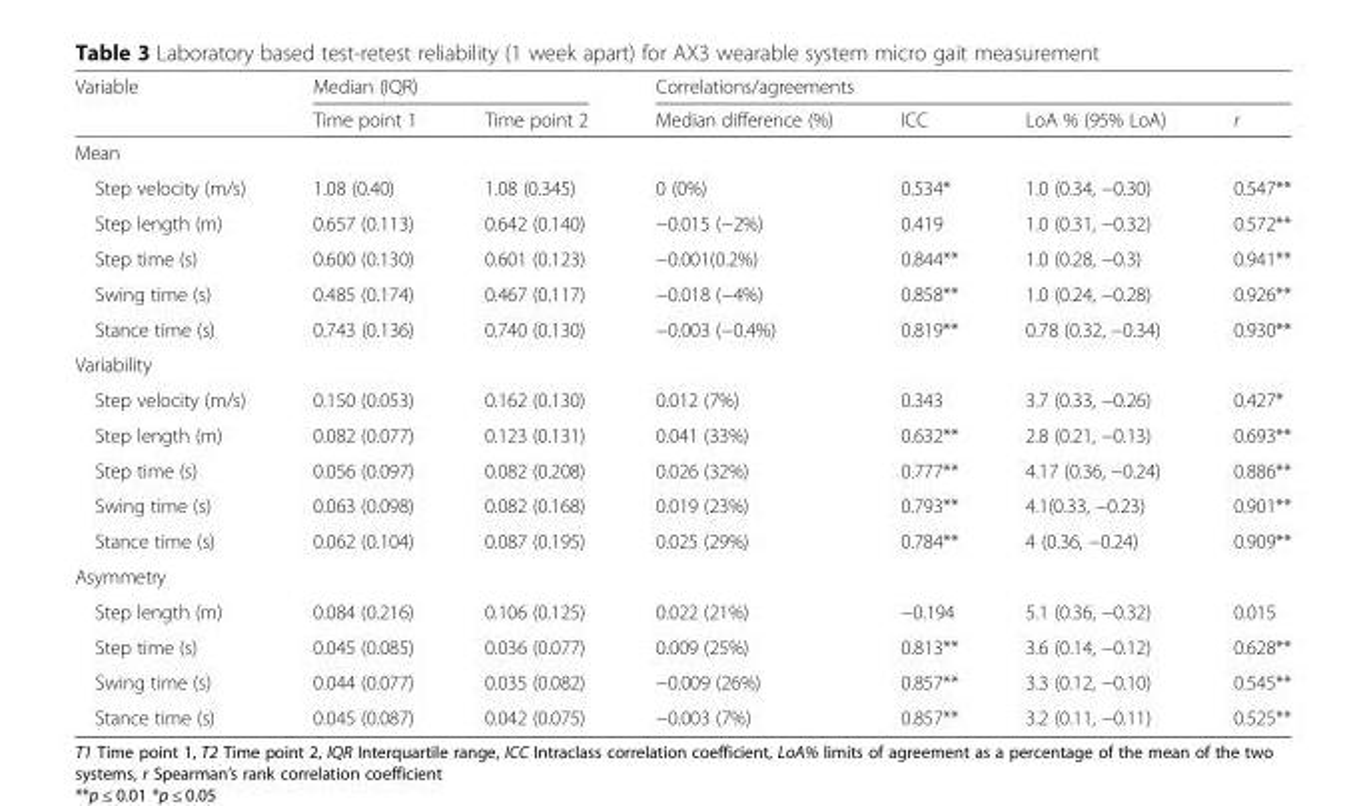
<table><thead><tr><td rowspan="2">Variable</td><td colspan="2">Median (IQR)</td><td colspan="4">Correlations/agreements</td></tr><tr><td>Time point 1</td><td>Time point 2</td><td>Median difference (%)</td><td>ICC</td><td>LoA % (95% LoA)</td><td>r</td></tr></thead><tbody><tr><td colspan="7">Mean</td></tr><tr><td>Step velocity (m/s)</td><td>1.08 (0.40)</td><td>1.08 (0.345)</td><td>0 (0%)</td><td>0.534*</td><td>1.0 (0.34, −0.30)</td><td>0.547**</td></tr><tr><td>Step length (m)</td><td>0.657 (0.113)</td><td>0.642 (0.140)</td><td>−0.015 (−2%)</td><td>0.419</td><td>1.0 (0.31, −0.32)</td><td>0.572**</td></tr><tr><td>Step time (s)</td><td>0.600 (0.130)</td><td>0.601 (0.123)</td><td>−0.001(0.2%)</td><td>0.844**</td><td>1.0 (0.28, −0.3)</td><td>0.941**</td></tr><tr><td>Swing time (s)</td><td>0.485 (0.174)</td><td>0.467 (0.117)</td><td>−0.018 (−4%)</td><td>0.858**</td><td>1.0 (0.24, −0.28)</td><td>0.926**</td></tr><tr><td>Stance time (s)</td><td>0.743 (0.136)</td><td>0.740 (0.130)</td><td>−0.003 (−0.4%)</td><td>0.819**</td><td>0.78 (0.32, −0.34)</td><td>0.930**</td></tr><tr><td colspan="7">Variability</td></tr><tr><td>Step velocity (m/s)</td><td>0.150 (0.053)</td><td>0.162 (0.130)</td><td>0.012 (7%)</td><td>0.343</td><td>3.7 (0.33, −0.26)</td><td>0.427*</td></tr><tr><td>Step length (m)</td><td>0.082 (0.077)</td><td>0.123 (0.131)</td><td>0.041 (33%)</td><td>0.632**</td><td>2.8 (0.21, −0.13)</td><td>0.693**</td></tr><tr><td>Step time (s)</td><td>0.056 (0.097)</td><td>0.082 (0.208)</td><td>0.026 (32%)</td><td>0.777**</td><td>4.17 (0.36, −0.24)</td><td>0.886**</td></tr><tr><td>Swing time (s)</td><td>0.063 (0.098)</td><td>0.082 (0.168)</td><td>0.019 (23%)</td><td>0.793**</td><td>4.1(0.33, −0.23)</td><td>0.901**</td></tr><tr><td>Stance time (s)</td><td>0.062 (0.104)</td><td>0.087 (0.195)</td><td>0.025 (29%)</td><td>0.784**</td><td>4 (0.36, −0.24)</td><td>0.909**</td></tr><tr><td colspan="7">Asymmetry</td></tr><tr><td>Step length (m)</td><td>0.084 (0.216)</td><td>0.106 (0.125)</td><td>0.022 (21%)</td><td>−0.194</td><td>5.1 (0.36, −0.32)</td><td>0.015</td></tr><tr><td>Step time (s)</td><td>0.045 (0.085)</td><td>0.036 (0.077)</td><td>0.009 (25%)</td><td>0.813**</td><td>3.6 (0.14, −0.12)</td><td>0.628**</td></tr><tr><td>Swing time (s)</td><td>0.044 (0.077)</td><td>0.035 (0.082)</td><td>−0.009 (26%)</td><td>0.857**</td><td>3.3 (0.12, −0.10)</td><td>0.545**</td></tr><tr><td>Stance time (s)</td><td>0.045 (0.087)</td><td>0.042 (0.075)</td><td>−0.003 (7%)</td><td>0.857**</td><td>3.2 (0.11, −0.11)</td><td>0.525**</td></tr></tbody></table>